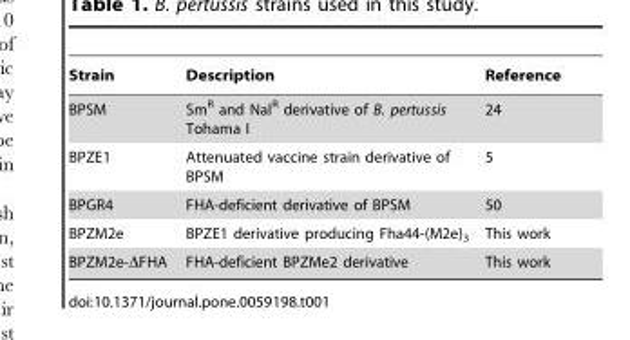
<table><thead><tr><td>Strain</td><td>Description</td><td>Reference</td></tr></thead><tbody><tr><td>BPSM</td><td>Sm<sup>R</sup> and Nal<sup>R</sup> derivative of B. pertussis Tohama I</td><td>24</td></tr><tr><td>BPZE1</td><td>Attenuated vaccine strain derivative of BPSM</td><td>5</td></tr><tr><td>BPGR4</td><td>FHA-deficient derivative of BPSM</td><td>50</td></tr><tr><td>BPZM2e</td><td>BPZE1 derivative producing Fha44-(M2e)<sub>3</sub></td><td>This work</td></tr><tr><td>BPZM2e-ΔFHA</td><td>FHA-deficient BPZMe2 derivative</td><td>This work</td></tr></tbody></table>